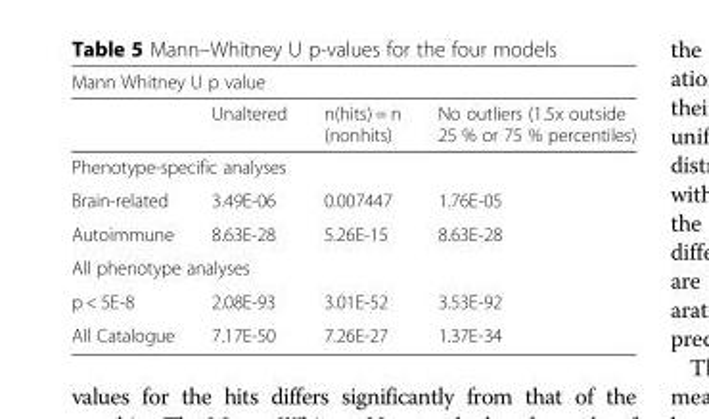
<table><thead><tr><td colspan="4">Mann Whitney U p value</td></tr><tr><td></td><td>Unaltered</td><td>n(hits) = n (nonhits)</td><td>No outliers (1.5x outside 25 % or 75 % percentiles)</td></tr></thead><tbody><tr><td colspan="4">Phenotype-specific analyses</td></tr><tr><td>Brain-related</td><td>3.49E-06</td><td>0.007447</td><td>1.76E-05</td></tr><tr><td>Autoimmune</td><td>8.63E-28</td><td>5.26E-15</td><td>8.63E-28</td></tr><tr><td colspan="4">All phenotype analyses</td></tr><tr><td>p &lt; 5E-8</td><td>2.08E-93</td><td>3.01E-52</td><td>3.53E-92</td></tr><tr><td>All Catalogue</td><td>7.17E-50</td><td>7.26E-27</td><td>1.37E-34</td></tr></tbody></table>